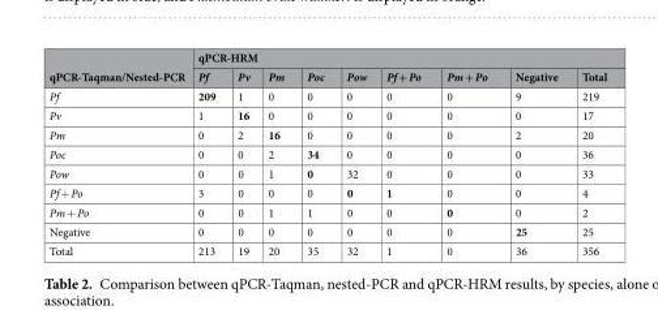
<table><thead><tr><td rowspan="2">qPCR-Taqman/Nested-PCR</td><td colspan="9">qPCR-HRM</td></tr><tr><td>Pf</td><td>Pv</td><td>Pm</td><td>Poc</td><td>Pow</td><td>Pf + Po</td><td>Pm + Po</td><td>Negative</td><td>Total</td></tr></thead><tbody><tr><td>Pf</td><td>209</td><td>1</td><td>0</td><td>0</td><td>0</td><td>0</td><td>0</td><td>9</td><td>219</td></tr><tr><td>Pv</td><td>1</td><td>16</td><td>0</td><td>0</td><td>0</td><td>0</td><td>0</td><td>0</td><td>17</td></tr><tr><td>Pm</td><td>0</td><td>2</td><td>16</td><td>0</td><td>0</td><td>0</td><td>0</td><td>2</td><td>20</td></tr><tr><td>Poc</td><td>0</td><td>0</td><td>2</td><td>34</td><td>0</td><td>0</td><td>0</td><td>0</td><td>36</td></tr><tr><td>Pow</td><td>0</td><td>0</td><td>1</td><td>0</td><td>32</td><td>0</td><td>0</td><td>0</td><td>33</td></tr><tr><td>Pf + Po</td><td>3</td><td>0</td><td>0</td><td>0</td><td>0</td><td>1</td><td>0</td><td>0</td><td>4</td></tr><tr><td>Pm + Po</td><td>0</td><td>0</td><td>1</td><td>1</td><td>0</td><td>0</td><td>0</td><td>0</td><td>2</td></tr><tr><td>Negative</td><td>0</td><td>0</td><td>0</td><td>0</td><td>0</td><td>0</td><td>0</td><td>25</td><td>25</td></tr><tr><td>Total</td><td>213</td><td>19</td><td>20</td><td>35</td><td>32</td><td>1</td><td>0</td><td>36</td><td>356</td></tr></tbody></table>